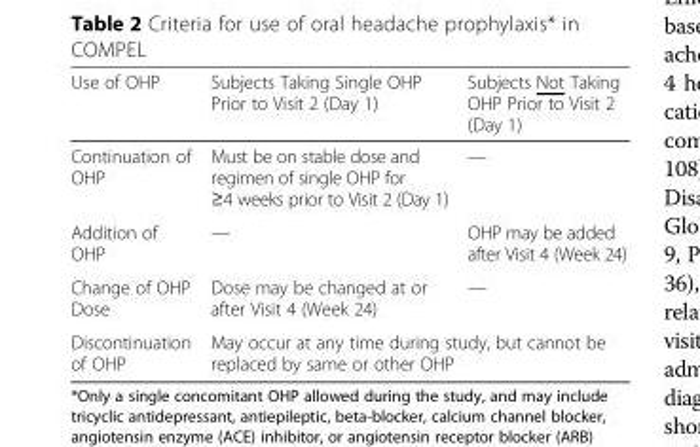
<table><thead><tr><td>Use of OHP</td><td>Subjects Taking Single OHP Prior to Visit 2 (Day 1)</td><td>Subjects Not Taking OHP Prior to Visit 2 (Day 1)</td></tr></thead><tbody><tr><td>Continuation of OHP</td><td>Must be on stable dose and regimen of single OHP for ≥4 weeks prior to Visit 2 (Day 1)</td><td>—</td></tr><tr><td>Addition of OHP</td><td>—</td><td>OHP may be added after Visit 4 (Week 24)</td></tr><tr><td>Change of OHP Dose</td><td>Dose may be changed at or after Visit 4 (Week 24)</td><td>—</td></tr><tr><td>Discontinuation of OHP</td><td colspan="2">May occur at any time during study, but cannot be replaced by same or other OHP</td></tr></tbody></table>